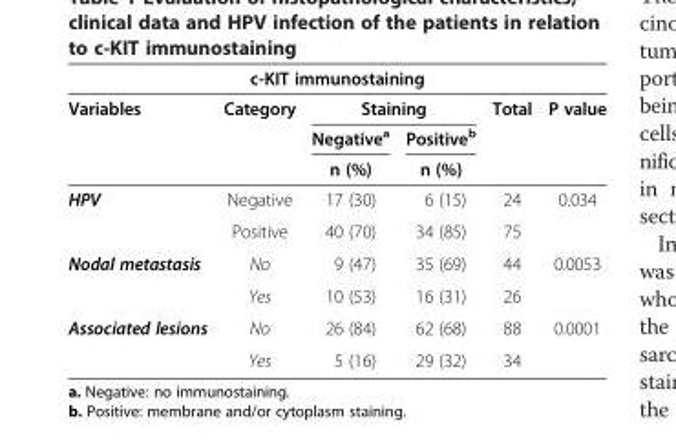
<table><thead><tr><td colspan="6">c-KIT immunostaining</td></tr><tr><td rowspan="3">Variables</td><td rowspan="3">Category</td><td colspan="2">Staining</td><td rowspan="3">Total</td><td rowspan="3">P value</td></tr><tr><td rowspan="2">Negative<sup>a</sup> n (%)</td><td rowspan="2">Positive<sup>b</sup> n (%)</td></tr><tr></tr></thead><tbody><tr><td rowspan="2">HPV</td><td>Negative</td><td>17 (30)</td><td>6 (15)</td><td>24</td><td>0.034</td></tr><tr><td>Positive</td><td>40 (70)</td><td>34 (85)</td><td>75</td><td></td></tr><tr><td rowspan="2">Nodal metastasis</td><td>No</td><td>9 (47)</td><td>35 (69)</td><td>44</td><td>0.0053</td></tr><tr><td>Yes</td><td>10 (53)</td><td>16 (31)</td><td>26</td><td></td></tr><tr><td rowspan="2">Associated lesions</td><td>No</td><td>26 (84)</td><td>62 (68)</td><td>88</td><td>0.0001</td></tr><tr><td>Yes</td><td>5 (16)</td><td>29 (32)</td><td>34</td><td></td></tr></tbody></table>